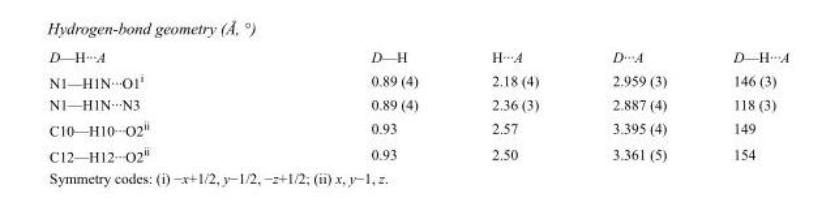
<table><tbody><tr><td>D—H···A</td><td>D—H</td><td>H···A</td><td>D···A</td><td>D—H···A</td></tr><tr><td>N1—H1N···O1<sup>i</sup></td><td>0.89 (4)</td><td>2.18 (4)</td><td>2.959 (3)</td><td>146 (3)</td></tr><tr><td>N1—H1N···N3</td><td>0.89 (4)</td><td>2.36 (3)</td><td>2.887 (4)</td><td>118 (3)</td></tr><tr><td>C10—H10···O2<sup>ii</sup></td><td>0.93</td><td>2.57</td><td>3.395 (4)</td><td>149</td></tr><tr><td>C12—H12···O2<sup>ii</sup></td><td>0.93</td><td>2.50</td><td>3.361 (5)</td><td>154</td></tr></tbody></table>